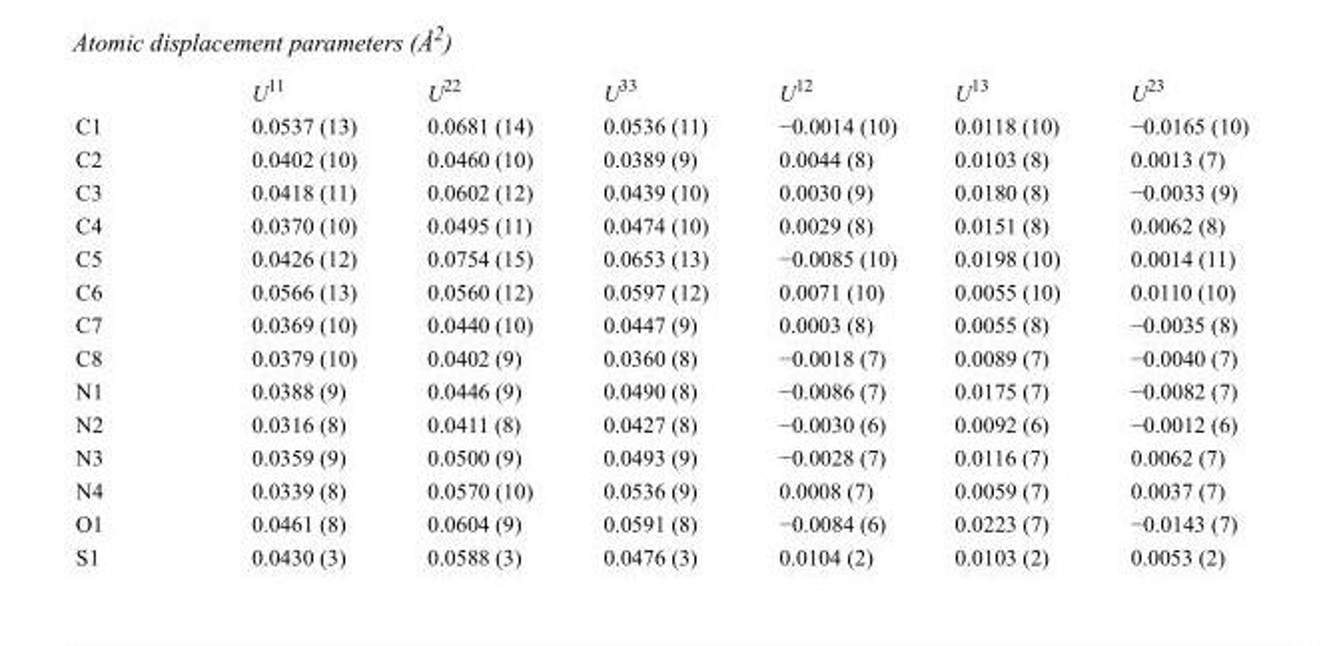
<table><thead><tr><td></td><td>U<sup>11</sup></td><td>U<sup>22</sup></td><td>U<sup>33</sup></td><td>U<sup>12</sup></td><td>U<sup>13</sup></td><td>U<sup>23</sup></td></tr></thead><tbody><tr><td>C1</td><td>0.0537 (13)</td><td>0.0681 (14)</td><td>0.0536 (11)</td><td>−0.0014 (10)</td><td>0.0118 (10)</td><td>−0.0165 (10)</td></tr><tr><td>C2</td><td>0.0402 (10)</td><td>0.0460 (10)</td><td>0.0389 (9)</td><td>0.0044 (8)</td><td>0.0103 (8)</td><td>0.0013 (7)</td></tr><tr><td>C3</td><td>0.0418 (11)</td><td>0.0602 (12)</td><td>0.0439 (10)</td><td>0.0030 (9)</td><td>0.0180 (8)</td><td>−0.0033 (9)</td></tr><tr><td>C4</td><td>0.0370 (10)</td><td>0.0495 (11)</td><td>0.0474 (10)</td><td>0.0029 (8)</td><td>0.0151 (8)</td><td>0.0062 (8)</td></tr><tr><td>C5</td><td>0.0426 (12)</td><td>0.0754 (15)</td><td>0.0653 (13)</td><td>−0.0085 (10)</td><td>0.0198 (10)</td><td>0.0014 (11)</td></tr><tr><td>C6</td><td>0.0566 (13)</td><td>0.0560 (12)</td><td>0.0597 (12)</td><td>0.0071 (10)</td><td>0.0055 (10)</td><td>0.0110 (10)</td></tr><tr><td>C7</td><td>0.0369 (10)</td><td>0.0440 (10)</td><td>0.0447 (9)</td><td>0.0003 (8)</td><td>0.0055 (8)</td><td>−0.0035 (8)</td></tr><tr><td>C8</td><td>0.0379 (10)</td><td>0.0402 (9)</td><td>0.0360 (8)</td><td>−0.0018 (7)</td><td>0.0089 (7)</td><td>−0.0040 (7)</td></tr><tr><td>N1</td><td>0.0388 (9)</td><td>0.0446 (9)</td><td>0.0490 (8)</td><td>−0.0086 (7)</td><td>0.0175 (7)</td><td>−0.0082 (7)</td></tr><tr><td>N2</td><td>0.0316 (8)</td><td>0.0411 (8)</td><td>0.0427 (8)</td><td>−0.0030 (6)</td><td>0.0092 (6)</td><td>−0.0012 (6)</td></tr><tr><td>N3</td><td>0.0359 (9)</td><td>0.0500 (9)</td><td>0.0493 (9)</td><td>−0.0028 (7)</td><td>0.0116 (7)</td><td>0.0062 (7)</td></tr><tr><td>N4</td><td>0.0339 (8)</td><td>0.0570 (10)</td><td>0.0536 (9)</td><td>0.0008 (7)</td><td>0.0059 (7)</td><td>0.0037 (7)</td></tr><tr><td>O1</td><td>0.0461 (8)</td><td>0.0604 (9)</td><td>0.0591 (8)</td><td>−0.0084 (6)</td><td>0.0223 (7)</td><td>−0.0143 (7)</td></tr><tr><td>S1</td><td>0.0430 (3)</td><td>0.0588 (3)</td><td>0.0476 (3)</td><td>0.0104 (2)</td><td>0.0103 (2)</td><td>0.0053 (2)</td></tr></tbody></table>